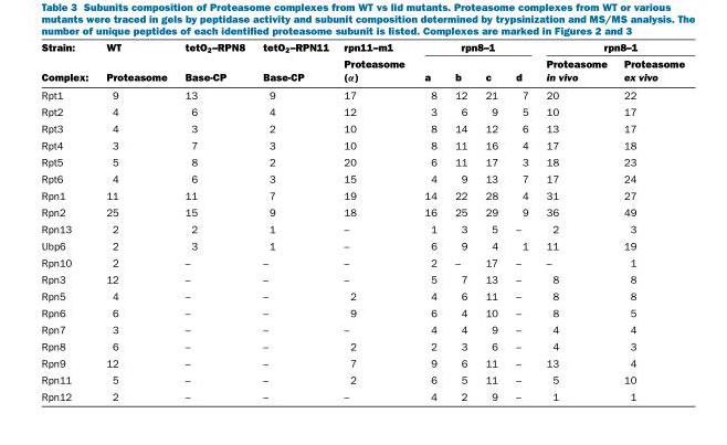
<table><thead><tr><td rowspan="2">Strain: Complex:</td><td rowspan="2">WT Proteasome</td><td rowspan="2">tetO<sub>2</sub>–RPN8 Base-CP</td><td rowspan="2">tetO<sub>2</sub>–RPN11 Base-CP</td><td rowspan="2">rpn11–m1 Proteasome (α)</td><td colspan="4">rpn8–1</td><td colspan="2">rpn8–1</td></tr><tr><td>a</td><td>b</td><td>c</td><td>d</td><td>Proteasome in vivo</td><td>Proteasome ex vivo</td></tr></thead><tbody><tr><td>Rpt1</td><td>9</td><td>13</td><td>9</td><td>17</td><td>8</td><td>12</td><td>21</td><td>7</td><td>20</td><td>22</td></tr><tr><td>Rpt2</td><td>4</td><td>6</td><td>4</td><td>12</td><td>3</td><td>6</td><td>9</td><td>5</td><td>10</td><td>17</td></tr><tr><td>Rpt3</td><td>4</td><td>3</td><td>2</td><td>10</td><td>8</td><td>14</td><td>12</td><td>6</td><td>13</td><td>17</td></tr><tr><td>Rpt4</td><td>3</td><td>7</td><td>3</td><td>10</td><td>8</td><td>11</td><td>16</td><td>4</td><td>17</td><td>18</td></tr><tr><td>Rpt5</td><td>5</td><td>8</td><td>2</td><td>20</td><td>6</td><td>11</td><td>17</td><td>3</td><td>18</td><td>23</td></tr><tr><td>Rpt6</td><td>4</td><td>6</td><td>3</td><td>15</td><td>4</td><td>9</td><td>13</td><td>7</td><td>17</td><td>24</td></tr><tr><td>Rpn1</td><td>11</td><td>11</td><td>7</td><td>19</td><td>14</td><td>22</td><td>28</td><td>4</td><td>31</td><td>27</td></tr><tr><td>Rpn2</td><td>25</td><td>15</td><td>9</td><td>18</td><td>16</td><td>25</td><td>29</td><td>9</td><td>36</td><td>49</td></tr><tr><td>Rpn13</td><td>2</td><td>2</td><td>1</td><td>–</td><td>1</td><td>3</td><td>5</td><td>–</td><td>2</td><td>3</td></tr><tr><td>Ubp6</td><td>2</td><td>3</td><td>1</td><td>–</td><td>6</td><td>9</td><td>4</td><td>1</td><td>11</td><td>19</td></tr><tr><td>Rpn10</td><td>2</td><td>–</td><td>–</td><td>–</td><td>2</td><td>–</td><td>17</td><td>–</td><td>–</td><td>1</td></tr><tr><td>Rpn3</td><td>12</td><td>–</td><td>–</td><td>–</td><td>5</td><td>7</td><td>13</td><td>–</td><td>8</td><td>8</td></tr><tr><td>Rpn5</td><td>4</td><td>–</td><td>–</td><td>2</td><td>4</td><td>6</td><td>11</td><td>–</td><td>8</td><td>8</td></tr><tr><td>Rpn6</td><td>6</td><td>–</td><td>–</td><td>9</td><td>6</td><td>4</td><td>10</td><td>–</td><td>8</td><td>5</td></tr><tr><td>Rpn7</td><td>3</td><td>–</td><td>–</td><td>–</td><td>4</td><td>4</td><td>9</td><td>–</td><td>4</td><td>4</td></tr><tr><td>Rpn8</td><td>6</td><td>–</td><td>–</td><td>2</td><td>2</td><td>3</td><td>6</td><td>–</td><td>4</td><td>3</td></tr><tr><td>Rpn9</td><td>12</td><td>–</td><td>–</td><td>7</td><td>9</td><td>6</td><td>11</td><td>–</td><td>13</td><td>4</td></tr><tr><td>Rpn11</td><td>5</td><td>–</td><td>–</td><td>2</td><td>6</td><td>5</td><td>11</td><td>–</td><td>5</td><td>10</td></tr><tr><td>Rpn12</td><td>2</td><td>–</td><td>–</td><td>–</td><td>4</td><td>2</td><td>9</td><td>–</td><td>1</td><td>1</td></tr></tbody></table>